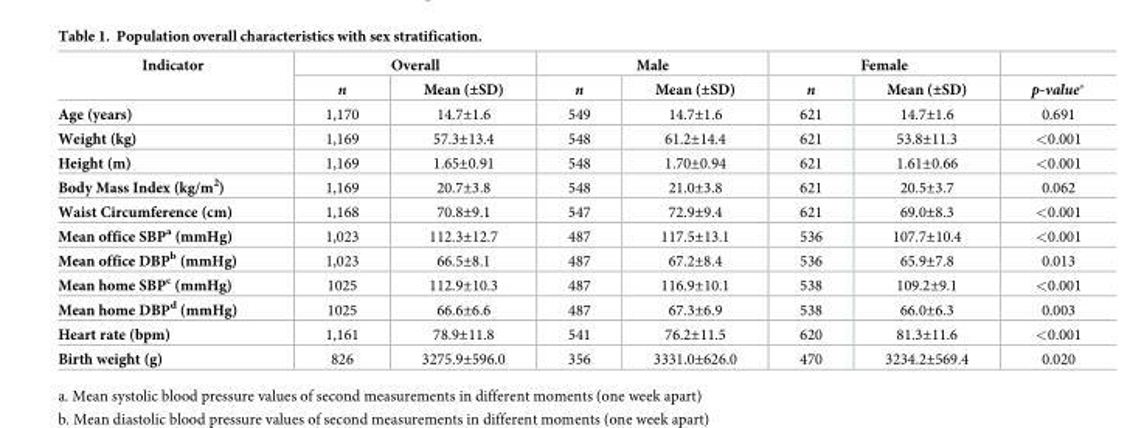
<table><thead><tr><td rowspan="2">Indicator</td><td colspan="2">Overall</td><td colspan="2">Male</td><td colspan="2">Female</td><td rowspan="2">p-value*</td></tr><tr><td>n</td><td>Mean (±SD)</td><td>n</td><td>Mean (±SD)</td><td>n</td><td>Mean (±SD)</td></tr></thead><tbody><tr><td>Age (years)</td><td>1,170</td><td>14.7±1.6</td><td>549</td><td>14.7±1.6</td><td>621</td><td>14.7±1.6</td><td>0.691</td></tr><tr><td>Weight (kg)</td><td>1,169</td><td>57.3±13.4</td><td>548</td><td>61.2±14.4</td><td>621</td><td>53.8±11.3</td><td>&lt;0.001</td></tr><tr><td>Height (m)</td><td>1,169</td><td>1.65±0.91</td><td>548</td><td>1.70±0.94</td><td>621</td><td>1.61±0.66</td><td>&lt;0.001</td></tr><tr><td>Body Mass Index (kg/m<sup>2</sup>)</td><td>1,169</td><td>20.7±3.8</td><td>548</td><td>21.0±3.8</td><td>621</td><td>20.5±3.7</td><td>0.062</td></tr><tr><td>Waist Circumference (cm)</td><td>1,168</td><td>70.8±9.1</td><td>547</td><td>72.9±9.4</td><td>621</td><td>69.0±8.3</td><td>&lt;0.001</td></tr><tr><td>Mean office SBP<sup>a</sup> (mmHg)</td><td>1,023</td><td>112.3±12.7</td><td>487</td><td>117.5±13.1</td><td>536</td><td>107.7±10.4</td><td>&lt;0.001</td></tr><tr><td>Mean office DBP<sup>b</sup> (mmHg)</td><td>1,023</td><td>66.5±8.1</td><td>487</td><td>67.2±8.4</td><td>536</td><td>65.9±7.8</td><td>0.013</td></tr><tr><td>Mean home SBP<sup>c</sup> (mmHg)</td><td>1025</td><td>112.9±10.3</td><td>487</td><td>116.9±10.1</td><td>538</td><td>109.2±9.1</td><td>&lt;0.001</td></tr><tr><td>Mean home DBP<sup>d</sup> (mmHg)</td><td>1025</td><td>66.6±6.6</td><td>487</td><td>67.3±6.9</td><td>538</td><td>66.0±6.3</td><td>0.003</td></tr><tr><td>Heart rate (bpm)</td><td>1,161</td><td>78.9±11.8</td><td>541</td><td>76.2±11.5</td><td>620</td><td>81.3±11.6</td><td>&lt;0.001</td></tr><tr><td>Birth weight (g)</td><td>826</td><td>3275.9±596.0</td><td>356</td><td>3331.0±626.0</td><td>470</td><td>3234.2±569.4</td><td>0.020</td></tr></tbody></table>